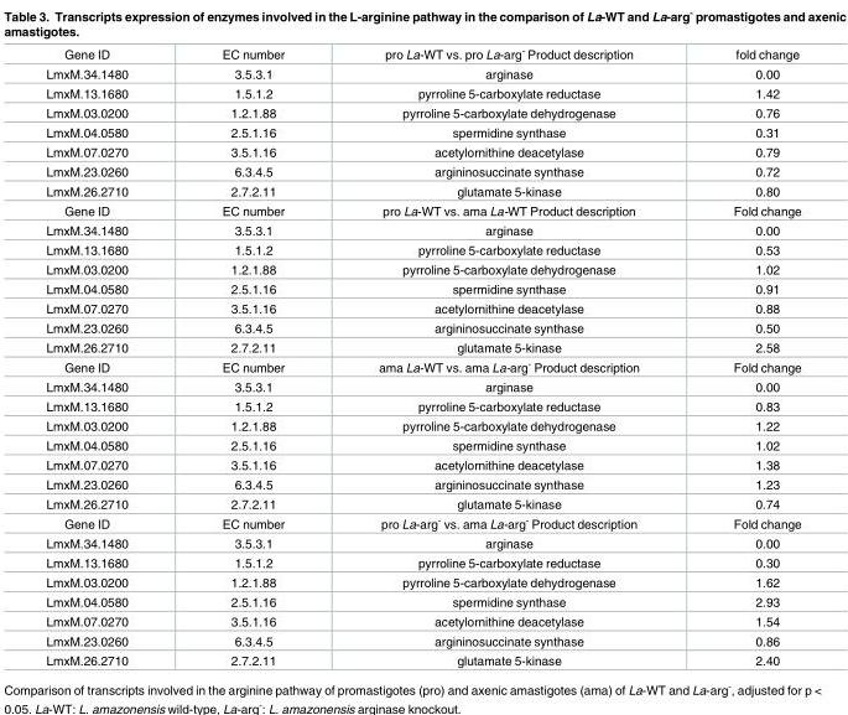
<table><tbody><tr><td>Gene ID</td><td>EC number</td><td>pro La-WT vs. pro La-arg<sup>-</sup> Product description</td><td>fold change</td></tr><tr><td>LmxM.34.1480</td><td>3.5.3.1</td><td>arginase</td><td>0.00</td></tr><tr><td>LmxM.13.1680</td><td>1.5.1.2</td><td>pyrroline 5-carboxylate reductase</td><td>1.42</td></tr><tr><td>LmxM.03.0200</td><td>1.2.1.88</td><td>pyrroline 5-carboxylate dehydrogenase</td><td>0.76</td></tr><tr><td>LmxM.04.0580</td><td>2.5.1.16</td><td>spermidine synthase</td><td>0.31</td></tr><tr><td>LmxM.07.0270</td><td>3.5.1.16</td><td>acetylornithine deacetylase</td><td>0.79</td></tr><tr><td>LmxM.23.0260</td><td>6.3.4.5</td><td>argininosuccinate synthase</td><td>0.72</td></tr><tr><td>LmxM.26.2710</td><td>2.7.2.11</td><td>glutamate 5-kinase</td><td>0.80</td></tr><tr><td>Gene ID</td><td>EC number</td><td>pro La-WT vs. ama La-WT Product description</td><td>Fold change</td></tr><tr><td>LmxM.34.1480</td><td>3.5.3.1</td><td>arginase</td><td>0.00</td></tr><tr><td>LmxM.13.1680</td><td>1.5.1.2</td><td>pyrroline 5-carboxylate reductase</td><td>0.53</td></tr><tr><td>LmxM.03.0200</td><td>1.2.1.88</td><td>pyrroline 5-carboxylate dehydrogenase</td><td>1.02</td></tr><tr><td>LmxM.04.0580</td><td>2.5.1.16</td><td>spermidine synthase</td><td>0.91</td></tr><tr><td>LmxM.07.0270</td><td>3.5.1.16</td><td>acetylornithine deacetylase</td><td>0.88</td></tr><tr><td>LmxM.23.0260</td><td>6.3.4.5</td><td>argininosuccinate synthase</td><td>0.50</td></tr><tr><td>LmxM.26.2710</td><td>2.7.2.11</td><td>glutamate 5-kinase</td><td>2.58</td></tr><tr><td>Gene ID</td><td>EC number</td><td>ama La-WT vs. ama La-arg<sup>-</sup> Product description</td><td>Fold change</td></tr><tr><td>LmxM.34.1480</td><td>3.5.3.1</td><td>arginase</td><td>0.00</td></tr><tr><td>LmxM.13.1680</td><td>1.5.1.2</td><td>pyrroline 5-carboxylate reductase</td><td>0.83</td></tr><tr><td>LmxM.03.0200</td><td>1.2.1.88</td><td>pyrroline 5-carboxylate dehydrogenase</td><td>1.22</td></tr><tr><td>LmxM.04.0580</td><td>2.5.1.16</td><td>spermidine synthase</td><td>1.02</td></tr><tr><td>LmxM.07.0270</td><td>3.5.1.16</td><td>acetylornithine deacetylase</td><td>1.38</td></tr><tr><td>LmxM.23.0260</td><td>6.3.4.5</td><td>argininosuccinate synthase</td><td>1.23</td></tr><tr><td>LmxM.26.2710</td><td>2.7.2.11</td><td>glutamate 5-kinase</td><td>0.74</td></tr><tr><td>Gene ID</td><td>EC number</td><td>pro La-arg<sup>-</sup> vs. ama La-arg<sup>-</sup> Product description</td><td>Fold change</td></tr><tr><td>LmxM.34.1480</td><td>3.5.3.1</td><td>arginase</td><td>0.00</td></tr><tr><td>LmxM.13.1680</td><td>1.5.1.2</td><td>pyrroline 5-carboxylate reductase</td><td>0.30</td></tr><tr><td>LmxM.03.0200</td><td>1.2.1.88</td><td>pyrroline 5-carboxylate dehydrogenase</td><td>1.62</td></tr><tr><td>LmxM.04.0580</td><td>2.5.1.16</td><td>spermidine synthase</td><td>2.93</td></tr><tr><td>LmxM.07.0270</td><td>3.5.1.16</td><td>acetylornithine deacetylase</td><td>1.54</td></tr><tr><td>LmxM.23.0260</td><td>6.3.4.5</td><td>argininosuccinate synthase</td><td>0.86</td></tr><tr><td>LmxM.26.2710</td><td>2.7.2.11</td><td>glutamate 5-kinase</td><td>2.40</td></tr></tbody></table>